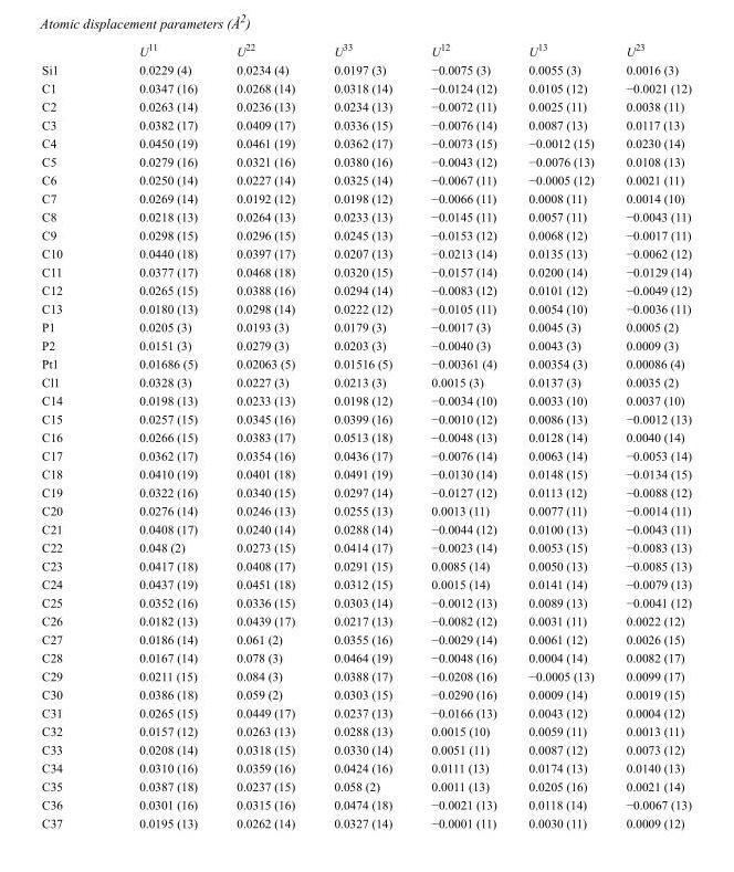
<table><thead><tr><td></td><td>U<sup>11</sup></td><td>U<sup>22</sup></td><td>U<sup>33</sup></td><td>U<sup>12</sup></td><td>U<sup>13</sup></td><td>U<sup>23</sup></td></tr></thead><tbody><tr><td>Si1</td><td>0.0229 (4)</td><td>0.0234 (4)</td><td>0.0197 (3)</td><td>−0.0075 (3)</td><td>0.0055 (3)</td><td>0.0016 (3)</td></tr><tr><td>C1</td><td>0.0347 (16)</td><td>0.0268 (14)</td><td>0.0318 (14)</td><td>−0.0124 (12)</td><td>0.0105 (12)</td><td>−0.0021 (12)</td></tr><tr><td>C2</td><td>0.0263 (14)</td><td>0.0236 (13)</td><td>0.0234 (13)</td><td>−0.0072 (11)</td><td>0.0025 (11)</td><td>0.0038 (11)</td></tr><tr><td>C3</td><td>0.0382 (17)</td><td>0.0409 (17)</td><td>0.0336 (15)</td><td>−0.0076 (14)</td><td>0.0087 (13)</td><td>0.0117 (13)</td></tr><tr><td>C4</td><td>0.0450 (19)</td><td>0.0461 (19)</td><td>0.0362 (17)</td><td>−0.0073 (15)</td><td>−0.0012 (15)</td><td>0.0230 (14)</td></tr><tr><td>C5</td><td>0.0279 (16)</td><td>0.0321 (16)</td><td>0.0380 (16)</td><td>−0.0043 (12)</td><td>−0.0076 (13)</td><td>0.0108 (13)</td></tr><tr><td>C6</td><td>0.0250 (14)</td><td>0.0227 (14)</td><td>0.0325 (14)</td><td>−0.0067 (11)</td><td>−0.0005 (12)</td><td>0.0021 (11)</td></tr><tr><td>C7</td><td>0.0269 (14)</td><td>0.0192 (12)</td><td>0.0198 (12)</td><td>−0.0066 (11)</td><td>0.0008 (11)</td><td>0.0014 (10)</td></tr><tr><td>C8</td><td>0.0218 (13)</td><td>0.0264 (13)</td><td>0.0233 (13)</td><td>−0.0145 (11)</td><td>0.0057 (11)</td><td>−0.0043 (11)</td></tr><tr><td>C9</td><td>0.0298 (15)</td><td>0.0296 (15)</td><td>0.0245 (13)</td><td>−0.0153 (12)</td><td>0.0068 (12)</td><td>−0.0017 (11)</td></tr><tr><td>C10</td><td>0.0440 (18)</td><td>0.0397 (17)</td><td>0.0207 (13)</td><td>−0.0213 (14)</td><td>0.0135 (13)</td><td>−0.0062 (12)</td></tr><tr><td>C11</td><td>0.0377 (17)</td><td>0.0468 (18)</td><td>0.0320 (15)</td><td>−0.0157 (14)</td><td>0.0200 (14)</td><td>−0.0129 (14)</td></tr><tr><td>C12</td><td>0.0265 (15)</td><td>0.0388 (16)</td><td>0.0294 (14)</td><td>−0.0083 (12)</td><td>0.0101 (12)</td><td>−0.0049 (12)</td></tr><tr><td>C13</td><td>0.0180 (13)</td><td>0.0298 (14)</td><td>0.0222 (12)</td><td>−0.0105 (11)</td><td>0.0054 (10)</td><td>−0.0036 (11)</td></tr><tr><td>P1</td><td>0.0205 (3)</td><td>0.0193 (3)</td><td>0.0179 (3)</td><td>−0.0017 (3)</td><td>0.0045 (3)</td><td>0.0005 (2)</td></tr><tr><td>P2</td><td>0.0151 (3)</td><td>0.0279 (3)</td><td>0.0203 (3)</td><td>−0.0040 (3)</td><td>0.0043 (3)</td><td>0.0009 (3)</td></tr><tr><td>Pt1</td><td>0.01686 (5)</td><td>0.02063 (5)</td><td>0.01516 (5)</td><td>−0.00361 (4)</td><td>0.00354 (3)</td><td>0.00086 (4)</td></tr><tr><td>Cl1</td><td>0.0328 (3)</td><td>0.0227 (3)</td><td>0.0213 (3)</td><td>0.0015 (3)</td><td>0.0137 (3)</td><td>0.0035 (2)</td></tr><tr><td>C14</td><td>0.0198 (13)</td><td>0.0233 (13)</td><td>0.0198 (12)</td><td>−0.0034 (10)</td><td>0.0033 (10)</td><td>0.0037 (10)</td></tr><tr><td>C15</td><td>0.0257 (15)</td><td>0.0345 (16)</td><td>0.0399 (16)</td><td>−0.0010 (12)</td><td>0.0086 (13)</td><td>−0.0012 (13)</td></tr><tr><td>C16</td><td>0.0266 (15)</td><td>0.0383 (17)</td><td>0.0513 (18)</td><td>−0.0048 (13)</td><td>0.0128 (14)</td><td>0.0040 (14)</td></tr><tr><td>C17</td><td>0.0362 (17)</td><td>0.0354 (16)</td><td>0.0436 (17)</td><td>−0.0076 (14)</td><td>0.0063 (14)</td><td>−0.0053 (14)</td></tr><tr><td>C18</td><td>0.0410 (19)</td><td>0.0401 (18)</td><td>0.0491 (19)</td><td>−0.0130 (14)</td><td>0.0148 (15)</td><td>−0.0134 (15)</td></tr><tr><td>C19</td><td>0.0322 (16)</td><td>0.0340 (15)</td><td>0.0297 (14)</td><td>−0.0127 (12)</td><td>0.0113 (12)</td><td>−0.0088 (12)</td></tr><tr><td>C20</td><td>0.0276 (14)</td><td>0.0246 (13)</td><td>0.0255 (13)</td><td>0.0013 (11)</td><td>0.0077 (11)</td><td>−0.0014 (11)</td></tr><tr><td>C21</td><td>0.0408 (17)</td><td>0.0240 (14)</td><td>0.0288 (14)</td><td>−0.0044 (12)</td><td>0.0100 (13)</td><td>−0.0043 (11)</td></tr><tr><td>C22</td><td>0.048 (2)</td><td>0.0273 (15)</td><td>0.0414 (17)</td><td>−0.0023 (14)</td><td>0.0053 (15)</td><td>−0.0083 (13)</td></tr><tr><td>C23</td><td>0.0417 (18)</td><td>0.0408 (17)</td><td>0.0291 (15)</td><td>0.0085 (14)</td><td>0.0050 (13)</td><td>−0.0085 (13)</td></tr><tr><td>C24</td><td>0.0437 (19)</td><td>0.0451 (18)</td><td>0.0312 (15)</td><td>0.0015 (14)</td><td>0.0141 (14)</td><td>−0.0079 (13)</td></tr><tr><td>C25</td><td>0.0352 (16)</td><td>0.0336 (15)</td><td>0.0303 (14)</td><td>−0.0012 (13)</td><td>0.0089 (13)</td><td>−0.0041 (12)</td></tr><tr><td>C26</td><td>0.0182 (13)</td><td>0.0439 (17)</td><td>0.0217 (13)</td><td>−0.0082 (12)</td><td>0.0031 (11)</td><td>0.0022 (12)</td></tr><tr><td>C27</td><td>0.0186 (14)</td><td>0.061 (2)</td><td>0.0355 (16)</td><td>−0.0029 (14)</td><td>0.0061 (12)</td><td>0.0026 (15)</td></tr><tr><td>C28</td><td>0.0167 (14)</td><td>0.078 (3)</td><td>0.0464 (19)</td><td>−0.0048 (16)</td><td>0.0004 (14)</td><td>0.0082 (17)</td></tr><tr><td>C29</td><td>0.0211 (15)</td><td>0.084 (3)</td><td>0.0388 (17)</td><td>−0.0208 (16)</td><td>−0.0005 (13)</td><td>0.0099 (17)</td></tr><tr><td>C30</td><td>0.0386 (18)</td><td>0.059 (2)</td><td>0.0303 (15)</td><td>−0.0290 (16)</td><td>0.0009 (14)</td><td>0.0019 (15)</td></tr><tr><td>C31</td><td>0.0265 (15)</td><td>0.0449 (17)</td><td>0.0237 (13)</td><td>−0.0166 (13)</td><td>0.0043 (12)</td><td>0.0004 (12)</td></tr><tr><td>C32</td><td>0.0157 (12)</td><td>0.0263 (13)</td><td>0.0288 (13)</td><td>0.0015 (10)</td><td>0.0059 (11)</td><td>0.0013 (11)</td></tr><tr><td>C33</td><td>0.0208 (14)</td><td>0.0318 (15)</td><td>0.0330 (14)</td><td>0.0051 (11)</td><td>0.0087 (12)</td><td>0.0073 (12)</td></tr><tr><td>C34</td><td>0.0310 (16)</td><td>0.0359 (16)</td><td>0.0424 (16)</td><td>0.0111 (13)</td><td>0.0174 (13)</td><td>0.0140 (13)</td></tr><tr><td>C35</td><td>0.0387 (18)</td><td>0.0237 (15)</td><td>0.058 (2)</td><td>0.0011 (13)</td><td>0.0205 (16)</td><td>0.0021 (14)</td></tr><tr><td>C36</td><td>0.0301 (16)</td><td>0.0315 (16)</td><td>0.0474 (18)</td><td>−0.0021 (13)</td><td>0.0118 (14)</td><td>−0.0067 (13)</td></tr><tr><td>C37</td><td>0.0195 (13)</td><td>0.0262 (14)</td><td>0.0327 (14)</td><td>−0.0001 (11)</td><td>0.0030 (11)</td><td>0.0009 (12)</td></tr></tbody></table>